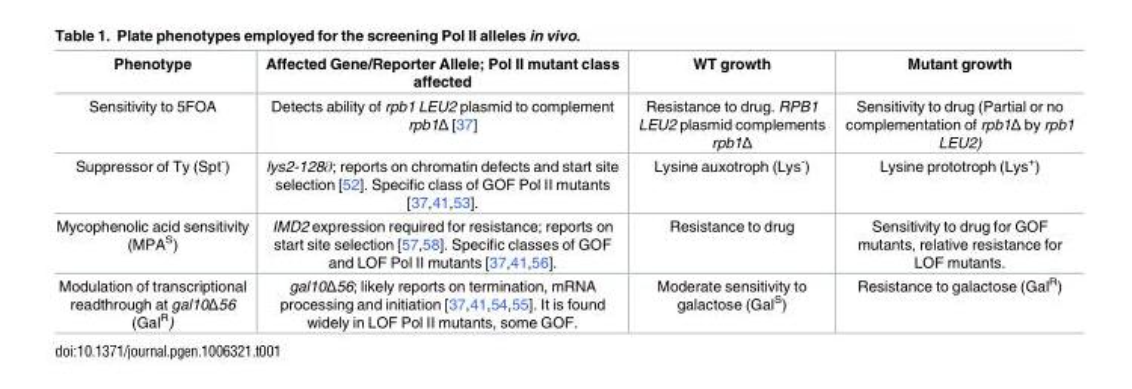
<table><thead><tr><td>Phenotype</td><td>Affected Gene/Reporter Allele; Pol II mutant class affected</td><td>WT growth</td><td>Mutant growth</td></tr></thead><tbody><tr><td>Sensitivity to 5FOA</td><td>Detects ability of rpb1 LEU2 plasmid to complement rpb1Δ [37]</td><td>Resistance to drug. RPB1 LEU2 plasmid complements rpb1Δ</td><td>Sensitivity to drug (Partial or no complementation of rpb1Δ by rpb1 LEU2)</td></tr><tr><td>Suppressor of Ty (Spt<sup>-</sup>)</td><td>lys2-128∂; reports on chromatin defects and start site selection [52]. Specific class of GOF Pol II mutants [37,41,53].</td><td>Lysine auxotroph (Lys<sup>-</sup>)</td><td>Lysine prototroph (Lys<sup>+</sup>)</td></tr><tr><td>Mycophenolic acid sensitivity (MPA<sup>S</sup>)</td><td>IMD2 expression required for resistance; reports on start site selection [57,58]. Specific classes of GOF and LOF Pol II mutants [37,41,56].</td><td>Resistance to drug</td><td>Sensitivity to drug for GOF mutants, relative resistance for LOF mutants.</td></tr><tr><td>Modulation of transcriptional readthrough at gal10Δ56 (Gal<sup>R</sup>)</td><td>gal10Δ56; likely reports on termination, mRNA processing and initiation [37,41,54,55]. It is found widely in LOF Pol II mutants, some GOF.</td><td>Moderate sensitivity to galactose (Gal<sup>S</sup>)</td><td>Resistance to galactose (Gal<sup>R</sup>)</td></tr></tbody></table>